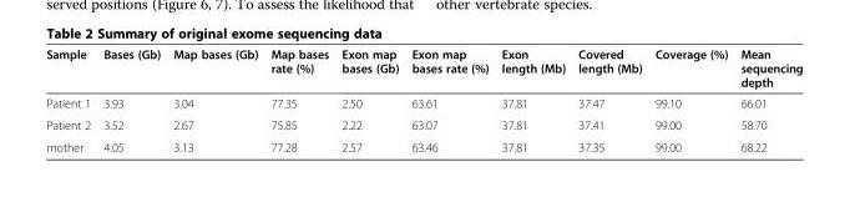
<table><thead><tr><td>Sample</td><td>Bases (Gb)</td><td>Map bases (Gb)</td><td>Map bases rate (%)</td><td>Exon map bases (Gb)</td><td>Exon map bases rate (%)</td><td>Exon length (Mb)</td><td>Covered length (Mb)</td><td>Coverage (%)</td><td>Mean sequencing depth</td></tr></thead><tbody><tr><td>Patient 1</td><td>3.93</td><td>3.04</td><td>77.35</td><td>2.50</td><td>63.61</td><td>37.81</td><td>37.47</td><td>99.10</td><td>66.01</td></tr><tr><td>Patient 2</td><td>3.52</td><td>2.67</td><td>75.85</td><td>2.22</td><td>63.07</td><td>37.81</td><td>37.41</td><td>99.00</td><td>58.70</td></tr><tr><td>mother</td><td>4.05</td><td>3.13</td><td>77.28</td><td>2.57</td><td>63.46</td><td>37.81</td><td>37.35</td><td>99.00</td><td>68.22</td></tr></tbody></table>